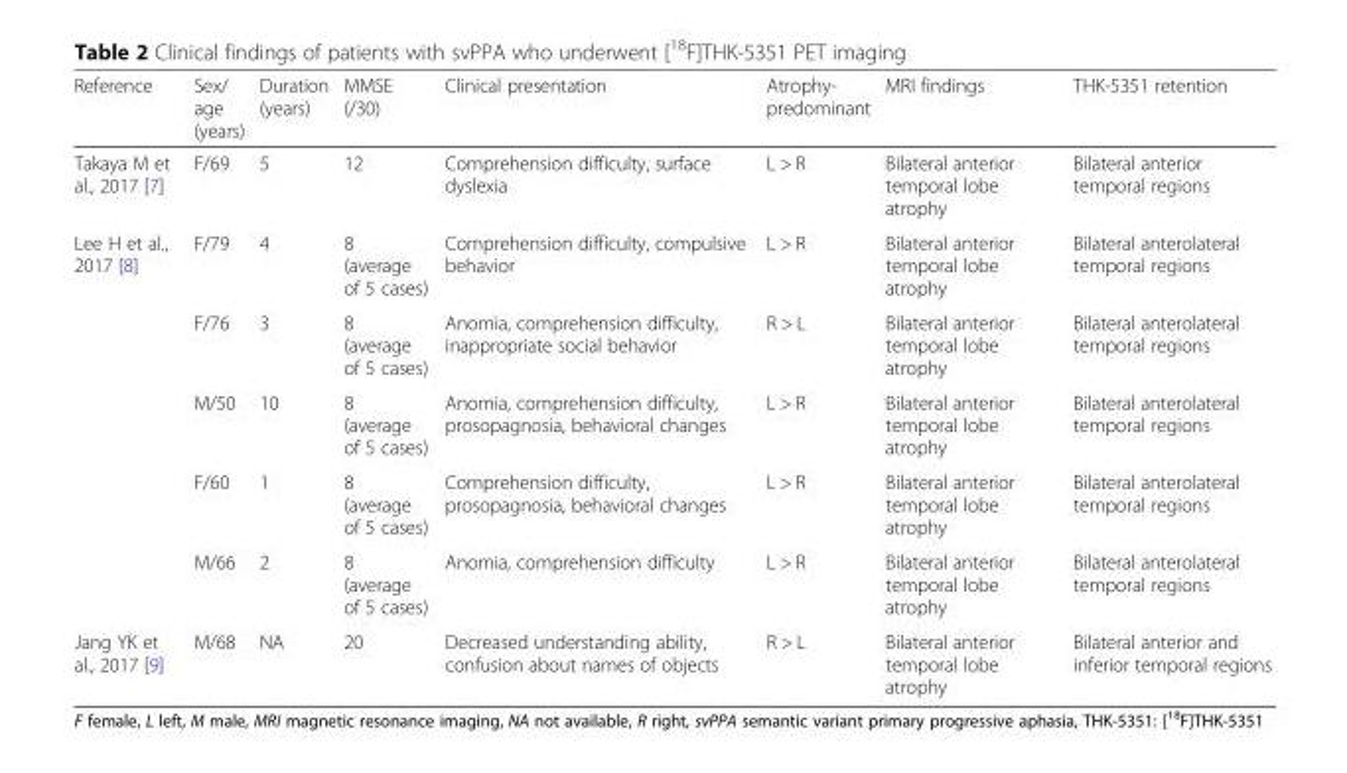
<table><thead><tr><td>Reference</td><td>Sex/ age (years)</td><td>Duration (years)</td><td>MMSE (/30)</td><td>Clinical presentation</td><td>Atrophy- predominant</td><td>MRI findings</td><td>THK-5351 retention</td></tr></thead><tbody><tr><td>Takaya M et al., 2017 [7]</td><td>F/69</td><td>5</td><td>12</td><td>Comprehension difficulty, surface dyslexia</td><td>L &gt; R</td><td>Bilateral anterior temporal lobe atrophy</td><td>Bilateral anterior temporal regions</td></tr><tr><td rowspan="5">Lee H et al., 2017 [8]</td><td>F/79</td><td>4</td><td>8 (average of 5 cases)</td><td>Comprehension difficulty, compulsive behavior</td><td>L &gt; R</td><td>Bilateral anterior temporal lobe atrophy</td><td>Bilateral anterolateral temporal regions</td></tr><tr><td>F/76</td><td>3</td><td>8 (average of 5 cases)</td><td>Anomia, comprehension difficulty, inappropriate social behavior</td><td>R &gt; L</td><td>Bilateral anterior temporal lobe atrophy</td><td>Bilateral anterolateral temporal regions</td></tr><tr><td>M/50</td><td>10</td><td>8 (average of 5 cases)</td><td>Anomia, comprehension difficulty, prosopagnosia, behavioral changes</td><td>L &gt; R</td><td>Bilateral anterior temporal lobe atrophy</td><td>Bilateral anterolateral temporal regions</td></tr><tr><td>F/60</td><td>1</td><td>8 (average of 5 cases)</td><td>Comprehension difficulty, prosopagnosia, behavioral changes</td><td>L &gt; R</td><td>Bilateral anterior temporal lobe atrophy</td><td>Bilateral anterolateral temporal regions</td></tr><tr><td>M/66</td><td>2</td><td>8 (average of 5 cases)</td><td>Anomia, comprehension difficulty</td><td>L &gt; R</td><td>Bilateral anterior temporal lobe atrophy</td><td>Bilateral anterolateral temporal regions</td></tr><tr><td>Jang YK et al., 2017 [9]</td><td>M/68</td><td>NA</td><td>20</td><td>Decreased understanding ability, confusion about names of objects</td><td>R &gt; L</td><td>Bilateral anterior temporal lobe atrophy</td><td>Bilateral anterior and inferior temporal regions</td></tr></tbody></table>